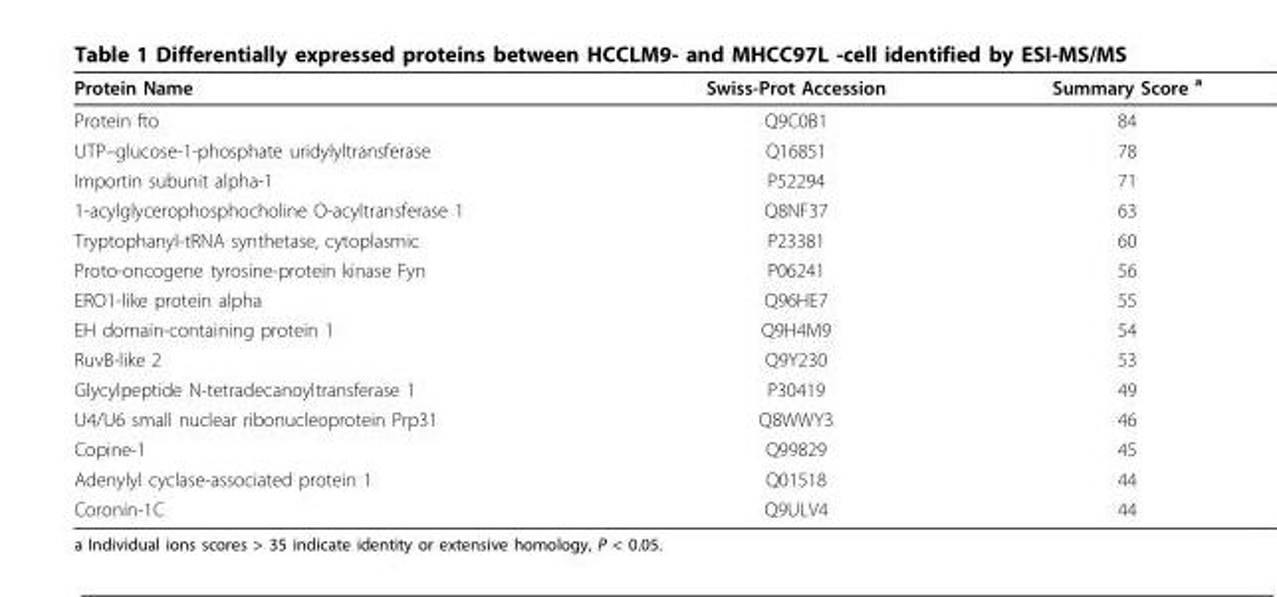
<table><thead><tr><td>Protein Name</td><td>Swiss-Prot Accession</td><td>Summary Score <sup>a</sup></td></tr></thead><tbody><tr><td>Protein fto</td><td>Q9C0B1</td><td>84</td></tr><tr><td>UTP–glucose-1-phosphate uridylyltransferase</td><td>Q16851</td><td>78</td></tr><tr><td>Importin subunit alpha-1</td><td>P52294</td><td>71</td></tr><tr><td>1-acylglycerophosphocholine O-acyltransferase 1</td><td>Q8NF37</td><td>63</td></tr><tr><td>Tryptophanyl-tRNA synthetase, cytoplasmic</td><td>P23381</td><td>60</td></tr><tr><td>Proto-oncogene tyrosine-protein kinase Fyn</td><td>P06241</td><td>56</td></tr><tr><td>ERO1-like protein alpha</td><td>Q96HE7</td><td>55</td></tr><tr><td>EH domain-containing protein 1</td><td>Q9H4M9</td><td>54</td></tr><tr><td>RuvB-like 2</td><td>Q9Y230</td><td>53</td></tr><tr><td>Glycylpeptide N-tetradecanoyltransferase 1</td><td>P30419</td><td>49</td></tr><tr><td>U4/U6 small nuclear ribonucleoprotein Prp31</td><td>Q8WWY3</td><td>46</td></tr><tr><td>Copine-1</td><td>Q99829</td><td>45</td></tr><tr><td>Adenylyl cyclase-associated protein 1</td><td>Q01518</td><td>44</td></tr><tr><td>Coronin-1C</td><td>Q9ULV4</td><td>44</td></tr></tbody></table>